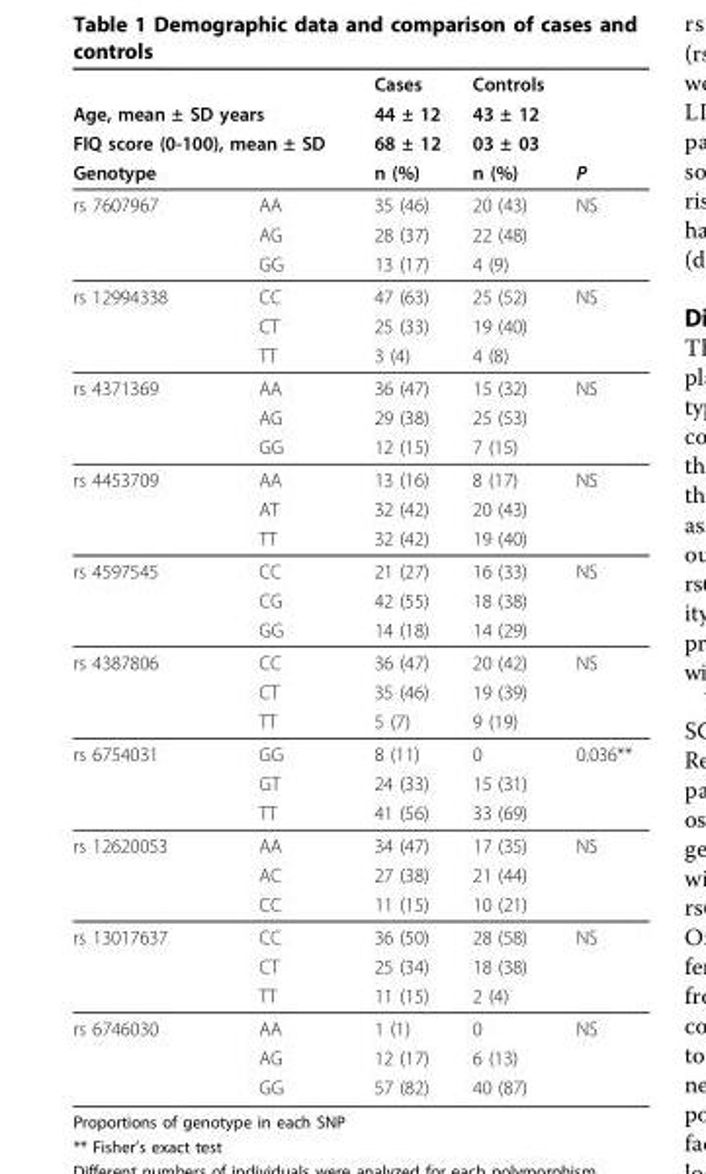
<table><thead><tr><td></td><td></td><td rowspan="4">Cases 44 ± 12 68 ± 12 n (%)</td><td rowspan="4">Controls 43 ± 12 03 ± 03 n (%)</td><td rowspan="4">P</td></tr><tr><td rowspan="3" colspan="2">Age, mean ± SD years FIQ score (0-100), mean ± SD Genotype</td></tr><tr></tr><tr></tr></thead><tbody><tr><td rowspan="3">rs 7607967</td><td>AA</td><td>35 (46)</td><td>20 (43)</td><td>NS</td></tr><tr><td>AG</td><td>28 (37)</td><td>22 (48)</td><td></td></tr><tr><td>GG</td><td>13 (17)</td><td>4 (9)</td><td></td></tr><tr><td rowspan="3">rs 12994338</td><td>CC</td><td>47 (63)</td><td>25 (52)</td><td>NS</td></tr><tr><td>CT</td><td>25 (33)</td><td>19 (40)</td><td></td></tr><tr><td>TT</td><td>3 (4)</td><td>4 (8)</td><td></td></tr><tr><td rowspan="3">rs 4371369</td><td>AA</td><td>36 (47)</td><td>15 (32)</td><td>NS</td></tr><tr><td>AG</td><td>29 (38)</td><td>25 (53)</td><td></td></tr><tr><td>GG</td><td>12 (15)</td><td>7 (15)</td><td></td></tr><tr><td rowspan="3">rs 4453709</td><td>AA</td><td>13 (16)</td><td>8 (17)</td><td>NS</td></tr><tr><td>AT</td><td>32 (42)</td><td>20 (43)</td><td></td></tr><tr><td>TT</td><td>32 (42)</td><td>19 (40)</td><td></td></tr><tr><td rowspan="3">rs 4597545</td><td>CC</td><td>21 (27)</td><td>16 (33)</td><td>NS</td></tr><tr><td>CG</td><td>42 (55)</td><td>18 (38)</td><td></td></tr><tr><td>GG</td><td>14 (18)</td><td>14 (29)</td><td></td></tr><tr><td rowspan="3">rs 4387806</td><td>CC</td><td>36 (47)</td><td>20 (42)</td><td>NS</td></tr><tr><td>CT</td><td>35 (46)</td><td>19 (39)</td><td></td></tr><tr><td>TT</td><td>5 (7)</td><td>9 (19)</td><td></td></tr><tr><td rowspan="3">rs 6754031</td><td>GG</td><td>8 (11)</td><td>0</td><td>0.036**</td></tr><tr><td>GT</td><td>24 (33)</td><td>15 (31)</td><td></td></tr><tr><td>TT</td><td>41 (56)</td><td>33 (69)</td><td></td></tr><tr><td rowspan="3">rs 12620053</td><td>AA</td><td>34 (47)</td><td>17 (35)</td><td>NS</td></tr><tr><td>AC</td><td>27 (38)</td><td>21 (44)</td><td></td></tr><tr><td>CC</td><td>11 (15)</td><td>10 (21)</td><td></td></tr><tr><td rowspan="3">rs 13017637</td><td>CC</td><td>36 (50)</td><td>28 (58)</td><td>NS</td></tr><tr><td>CT</td><td>25 (34)</td><td>18 (38)</td><td></td></tr><tr><td>TT</td><td>11 (15)</td><td>2 (4)</td><td></td></tr><tr><td rowspan="3">rs 6746030</td><td>AA</td><td>1 (1)</td><td>0</td><td>NS</td></tr><tr><td>AG</td><td>12 (17)</td><td>6 (13)</td><td></td></tr><tr><td>GG</td><td>57 (82)</td><td>40 (87)</td><td></td></tr></tbody></table>